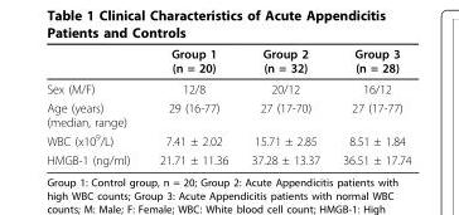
<table><thead><tr><td></td><td>Group 1 (n = 20)</td><td>Group 2 (n = 32)</td><td>Group 3 (n = 28)</td></tr></thead><tbody><tr><td>Sex (M/F)</td><td>12/8</td><td>20/12</td><td>16/12</td></tr><tr><td>Age (years) (median, range)</td><td>29 (16-77)</td><td>27 (17-70)</td><td>27 (17-77)</td></tr><tr><td>WBC (x10<sup>9</sup>/L)</td><td>7.41 ± 2.02</td><td>15.71 ± 2.85</td><td>8.51 ± 1.84</td></tr><tr><td>HMGB-1 (ng/ml)</td><td>21.71 ± 11.36</td><td>37.28 ± 13.37</td><td>36.51 ± 17.74</td></tr></tbody></table>